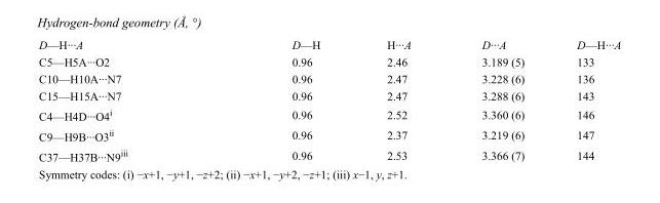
<table><tbody><tr><td>D—H···A</td><td>D—H</td><td>H···A</td><td>D···A</td><td>D—H···A</td></tr><tr><td>C5—H5A···O2</td><td>0.96</td><td>2.46</td><td>3.189 (5)</td><td>133</td></tr><tr><td>C10—H10A···N7</td><td>0.96</td><td>2.47</td><td>3.228 (6)</td><td>136</td></tr><tr><td>C15—H15A···N7</td><td>0.96</td><td>2.47</td><td>3.288 (6)</td><td>143</td></tr><tr><td>C4—H4D···O4<sup>i</sup></td><td>0.96</td><td>2.52</td><td>3.360 (6)</td><td>146</td></tr><tr><td>C9—H9B···O3<sup>ii</sup></td><td>0.96</td><td>2.37</td><td>3.219 (6)</td><td>147</td></tr><tr><td>C37—H37B···N9<sup>iii</sup></td><td>0.96</td><td>2.53</td><td>3.366 (7)</td><td>144</td></tr></tbody></table>